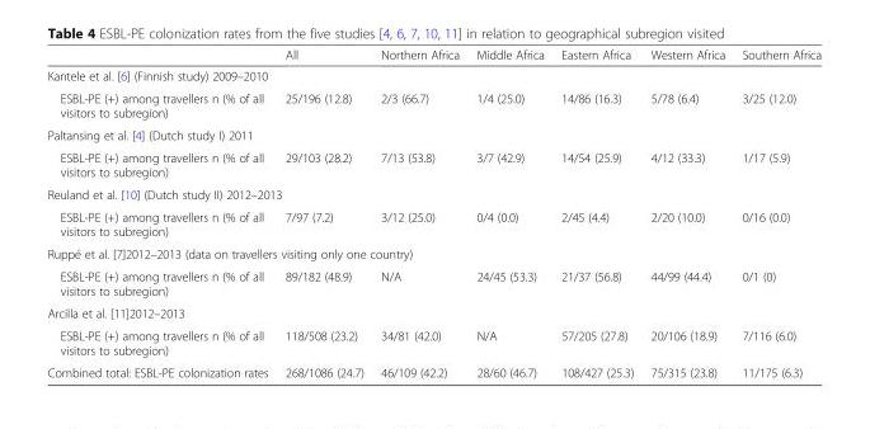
<table><thead><tr><td></td><td>All</td><td>Northern Africa</td><td>Middle Africa</td><td>Eastern Africa</td><td>Western Africa</td><td>Southern Africa</td></tr></thead><tbody><tr><td colspan="7">Kantele et al. [6] (Finnish study) 2009–2010</td></tr><tr><td>ESBL-PE (+) among travellers n (% of all visitors to subregion)</td><td>25/196 (12.8)</td><td>2/3 (66.7)</td><td>1/4 (25.0)</td><td>14/86 (16.3)</td><td>5/78 (6.4)</td><td>3/25 (12.0)</td></tr><tr><td colspan="7">Paltansing et al. [4] (Dutch study I) 2011</td></tr><tr><td>ESBL-PE (+) among travellers n (% of all visitors to subregion)</td><td>29/103 (28.2)</td><td>7/13 (53.8)</td><td>3/7 (42.9)</td><td>14/54 (25.9)</td><td>4/12 (33.3)</td><td>1/17 (5.9)</td></tr><tr><td colspan="7">Reuland et al. [10] (Dutch study II) 2012–2013</td></tr><tr><td>ESBL-PE (+) among travellers n (% of all visitors to subregion)</td><td>7/97 (7.2)</td><td>3/12 (25.0)</td><td>0/4 (0.0)</td><td>2/45 (4.4)</td><td>2/20 (10.0)</td><td>0/16 (0.0)</td></tr><tr><td colspan="7">Ruppé et al. [7]2012–2013 (data on travellers visiting only one country)</td></tr><tr><td>ESBL-PE (+) among travellers n (% of all visitors to subregion)</td><td>89/182 (48.9)</td><td>N/A</td><td>24/45 (53.3)</td><td>21/37 (56.8)</td><td>44/99 (44.4)</td><td>0/1 (0)</td></tr><tr><td colspan="7">Arcilla et al. [11]2012–2013</td></tr><tr><td>ESBL-PE (+) among travellers n (% of all visitors to subregion)</td><td>118/508 (23.2)</td><td>34/81 (42.0)</td><td>N/A</td><td>57/205 (27.8)</td><td>20/106 (18.9)</td><td>7/116 (6.0)</td></tr><tr><td>Combined total: ESBL-PE colonization rates</td><td>268/1086 (24.7)</td><td>46/109 (42.2)</td><td>28/60 (46.7)</td><td>108/427 (25.3)</td><td>75/315 (23.8)</td><td>11/175 (6.3)</td></tr></tbody></table>